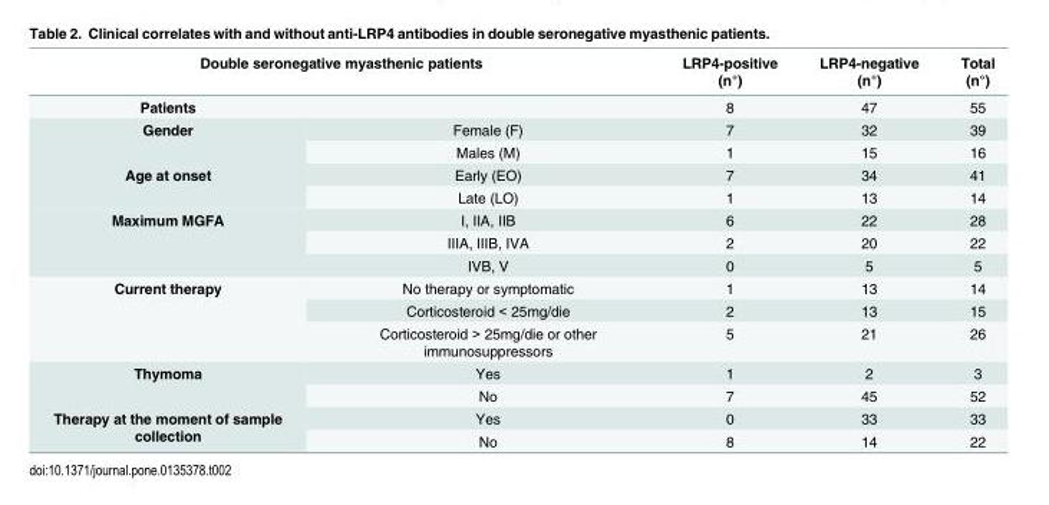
<table><thead><tr><td colspan="2">Double seronegative myasthenic patients</td><td rowspan="2">LRP4-positive (n°) 8</td><td rowspan="2">LRP4-negative (n°) 47</td><td rowspan="2">Total (n°) 55</td></tr><tr><td>Patients</td><td></td></tr></thead><tbody><tr><td rowspan="2">Gender</td><td>Female (F)</td><td>7</td><td>32</td><td>39</td></tr><tr><td>Males (M)</td><td>1</td><td>15</td><td>16</td></tr><tr><td rowspan="2">Age at onset</td><td>Early (EO)</td><td>7</td><td>34</td><td>41</td></tr><tr><td>Late (LO)</td><td>1</td><td>13</td><td>14</td></tr><tr><td rowspan="3">Maximum MGFA</td><td>I, IIA, IIB</td><td>6</td><td>22</td><td>28</td></tr><tr><td>IIIA, IIIB, IVA</td><td>2</td><td>20</td><td>22</td></tr><tr><td>IVB, V</td><td>0</td><td>5</td><td>5</td></tr><tr><td rowspan="3">Current therapy</td><td>No therapy or symptomatic</td><td>1</td><td>13</td><td>14</td></tr><tr><td>Corticosteroid &lt; 25mg/die</td><td>2</td><td>13</td><td>15</td></tr><tr><td>Corticosteroid &gt; 25mg/die or other immunosuppressors</td><td>5</td><td>21</td><td>26</td></tr><tr><td rowspan="2">Thymoma</td><td>Yes</td><td>1</td><td>2</td><td>3</td></tr><tr><td>No</td><td>7</td><td>45</td><td>52</td></tr><tr><td rowspan="2">Therapy at the moment of sample collection</td><td>Yes</td><td>0</td><td>33</td><td>33</td></tr><tr><td>No</td><td>8</td><td>14</td><td>22</td></tr></tbody></table>